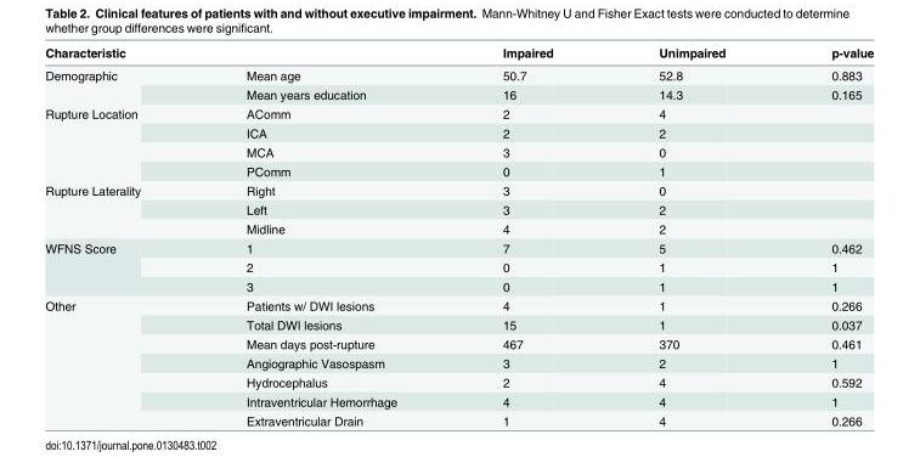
<table><thead><tr><td>Characteristic</td><td></td><td>Impaired</td><td>Unimpaired</td><td>p-value</td></tr></thead><tbody><tr><td rowspan="2">Demographic</td><td>Mean age</td><td>50.7</td><td>52.8</td><td>0.883</td></tr><tr><td>Mean years education</td><td>16</td><td>14.3</td><td>0.165</td></tr><tr><td rowspan="4">Rupture Location</td><td>AComm</td><td>2</td><td>4</td><td></td></tr><tr><td>ICA</td><td>2</td><td>2</td><td></td></tr><tr><td>MCA</td><td>3</td><td>0</td><td></td></tr><tr><td>PComm</td><td>0</td><td>1</td><td></td></tr><tr><td rowspan="3">Rupture Laterality</td><td>Right</td><td>3</td><td>0</td><td></td></tr><tr><td>Left</td><td>3</td><td>2</td><td></td></tr><tr><td>Midline</td><td>4</td><td>2</td><td></td></tr><tr><td rowspan="3">WFNS Score</td><td>1</td><td>7</td><td>5</td><td>0.462</td></tr><tr><td>2</td><td>0</td><td>1</td><td>1</td></tr><tr><td>3</td><td>0</td><td>1</td><td>1</td></tr><tr><td rowspan="7">Other</td><td>Patients w/ DWI lesions</td><td>4</td><td>1</td><td>0.266</td></tr><tr><td>Total DWI lesions</td><td>15</td><td>1</td><td>0.037</td></tr><tr><td>Mean days post-rupture</td><td>467</td><td>370</td><td>0.461</td></tr><tr><td>Angiographic Vasospasm</td><td>3</td><td>2</td><td>1</td></tr><tr><td>Hydrocephalus</td><td>2</td><td>4</td><td>0.592</td></tr><tr><td>Intraventricular Hemorrhage</td><td>4</td><td>4</td><td>1</td></tr><tr><td>Extraventricular Drain</td><td>1</td><td>4</td><td>0.266</td></tr></tbody></table>